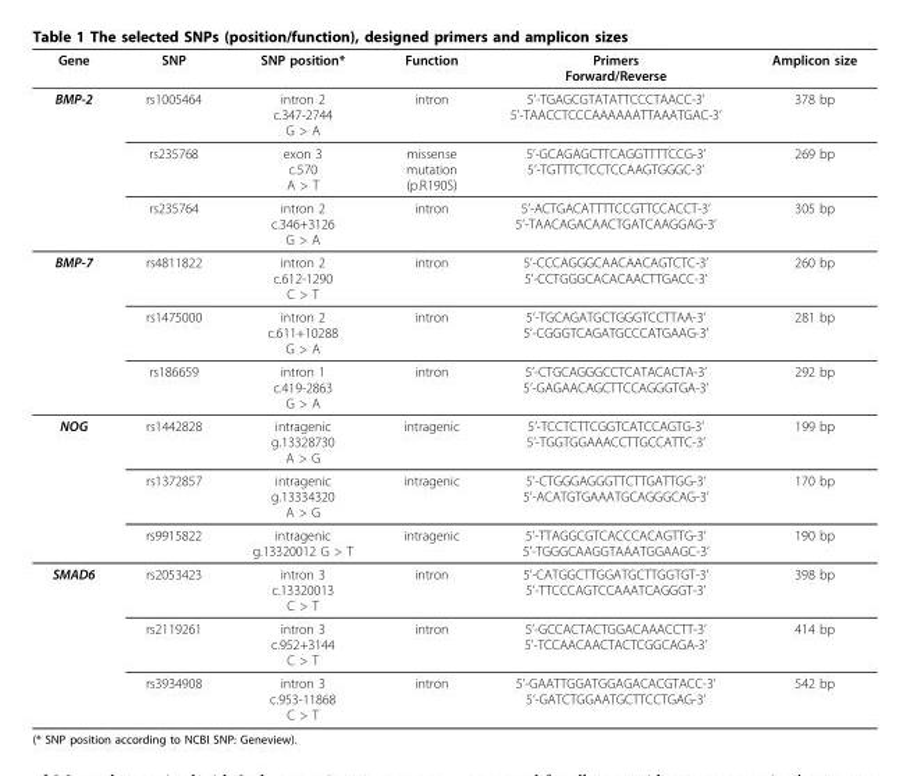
<table><thead><tr><td>Gene</td><td>SNP</td><td>SNP position*</td><td>Function</td><td>Primers Forward/Reverse</td><td>Amplicon size</td></tr></thead><tbody><tr><td rowspan="3">BMP-2</td><td>rs1005464</td><td>intron 2 c.347-2744 G &gt; A</td><td>intron</td><td>5’-TGAGCGTATATTCCCTAACC-3’ 5’-TAACCTCCCAAAAAATTAAATGAC-3’</td><td>378 bp</td></tr><tr><td>rs235768</td><td>exon 3 c.570 A &gt; T</td><td>missense mutation (p.R190S)</td><td>5’-GCAGAGCTTCAGGTTTTCCG-3’ 5’-TGTTTCTCCTCCAAGTGGGC-3’</td><td>269 bp</td></tr><tr><td>rs235764</td><td>intron 2 c.346+3126 G &gt; A</td><td>intron</td><td>5’-ACTGACATTTTCCGTTCCACCT-3’ 5’-TAACAGACAACTGATCAAGGAG-3’</td><td>305 bp</td></tr><tr><td rowspan="3">BMP-7</td><td>rs4811822</td><td>intron 2 c.612-1290 C &gt; T</td><td>intron</td><td>5’-CCCAGGGCAACAACAGTCTC-3’ 5’-CCTGGGCACACAACTTGACC-3’</td><td>260 bp</td></tr><tr><td>rs1475000</td><td>intron 2 c.611+10288 G &gt; A</td><td>intron</td><td>5’-TGCAGATGCTGGGTCCTTAA-3’ 5’-CGGGTCAGATGCCCATGAAG-3’</td><td>281 bp</td></tr><tr><td>rs186659</td><td>intron 1 c.419-2863 G &gt; A</td><td>intron</td><td>5’-CTGCAGGGCCTCATACACTA-3’ 5’-GAGAACAGCTTCCAGGGTGA-3’</td><td>292 bp</td></tr><tr><td rowspan="3">NOG</td><td>rs1442828</td><td>intragenic g.13328730 A &gt; G</td><td>intragenic</td><td>5’-TCCTCTTCGGTCATCCAGTG-3’ 5’-TGGTGGAAACCTTGCCATTC-3’</td><td>199 bp</td></tr><tr><td>rs1372857</td><td>intragenic g.13334320 A &gt; G</td><td>intragenic</td><td>5’-CTGGGAGGGTTCTTGATTGG-3’ 5’-ACATGTGAAATGCAGGGCAG-3’</td><td>170 bp</td></tr><tr><td>rs9915822</td><td>intragenic g.13320012 G &gt; T</td><td>intragenic</td><td>5’-TTAGGCGTCACCCACAGTTG-3’ 5’-TGGGCAAGGTAAATGGAAGC-3’</td><td>190 bp</td></tr><tr><td rowspan="3">SMAD6</td><td>rs2053423</td><td>intron 3 c.13320013 C &gt; T</td><td>intron</td><td>5’-CATGGCTTGGATGCTTGGTGT-3’ 5’-TTCCCAGTCCAAATCAGGGT-3’</td><td>398 bp</td></tr><tr><td>rs2119261</td><td>intron 3 c.952+3144 C &gt; T</td><td>intron</td><td>5’-GCCACTACTGGACAAACCTT-3’ 5’-TCCAACAACTACTCGGCAGA-3’</td><td>414 bp</td></tr><tr><td>rs3934908</td><td>intron 3 c.953-11868 C &gt; T</td><td>intron</td><td>5’-GAATTGGATGGAGACACGTACC-3’ 5’-GATCTGGAATGCTTCCTGAG-3’</td><td>542 bp</td></tr></tbody></table>